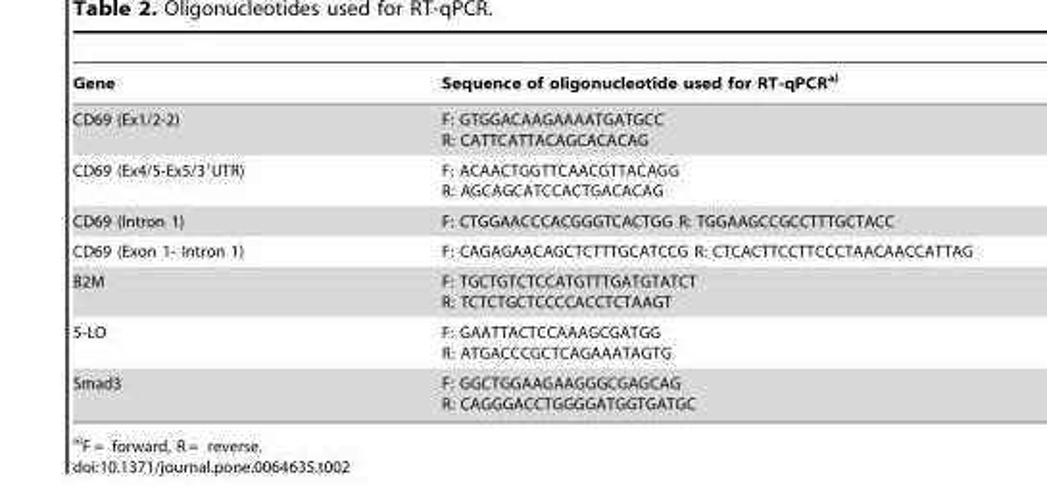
<table><thead><tr><td>Gene</td><td>Sequence of oligonucleotide used for RT-qPCRa)</td></tr></thead><tbody><tr><td>CD69 (Ex1/2-2)</td><td>F: GTGGACAAGAAAATGATGCC R: CATTCATTACAGCACACAG</td></tr><tr><td>CD69 (Ex4/5-Ex5/3′UTR)</td><td>F: ACAACTGGTTCAACGTTACAGG R: AGCAGCATCCACTGACACAG</td></tr><tr><td>CD69 (Intron 1)</td><td>F: CTGGAACCCACGGGTCACTGG R: TGGAAGCCGCCTTTGCTACC</td></tr><tr><td>CD69 (Exon 1- Intron 1)</td><td>F: CAGAGAACAGCTCTTTGCATCCG R: CTCACTTCCTTCCCTAACAACCATTAG</td></tr><tr><td>B2M</td><td>F: TGCTGTCTCCATGTTTGATGTATCT R: TCTCTGCTCCCCACCTCTAAGT</td></tr><tr><td>5-LO</td><td>F: GAATTACTCCAAAGCGATGG R: ATGACCCGCTCAGAAATAGTG</td></tr><tr><td>Smad3</td><td>F: GGCTGGAAGAAGGGCGAGCAG R: CAGGGACCTGGGGATGGTGATGC</td></tr></tbody></table>